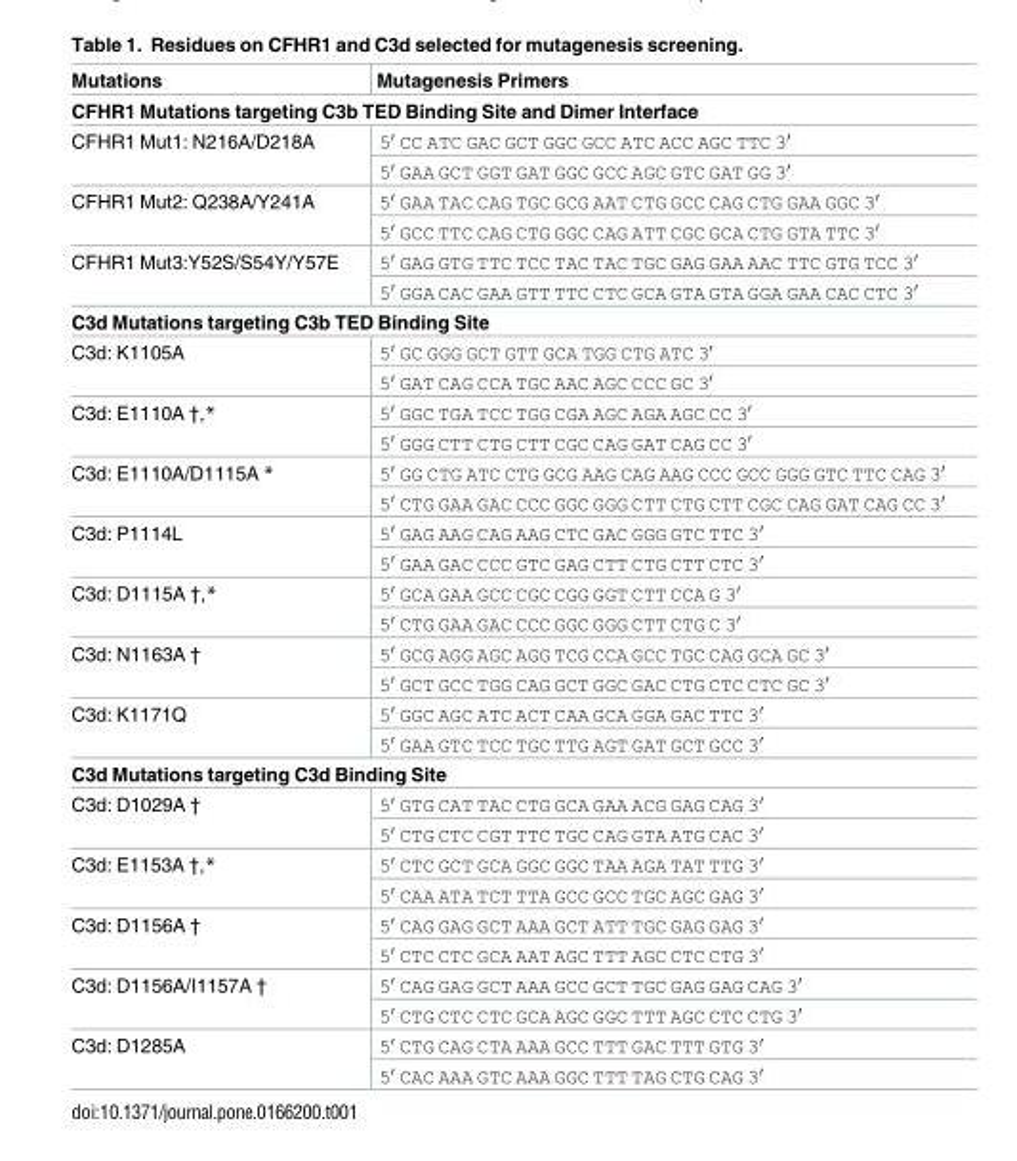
<table><thead><tr><td>Mutations</td><td>Mutagenesis Primers</td></tr></thead><tbody><tr><td colspan="2">CFHR1 Mutations targeting C3b TED Binding Site and Dimer Interface</td></tr><tr><td rowspan="2">CFHR1 Mut1: N216A/D218A</td><td>5′ CC ATC GAC GCT GGC GCC ATC ACC AGC TTC 3′</td></tr><tr><td>5′ GAA GCT GGT GAT GGC GCC AGC GTC GAT GG 3′</td></tr><tr><td rowspan="2">CFHR1 Mut2: Q238A/Y241A</td><td>5′ GAA TAC CAG TGC GCG AAT CTG GCC CAG CTG GAA GGC 3′</td></tr><tr><td>5′ GCC TTC CAG CTG GGC CAG ATT CGC GCA CTG GTA TTC 3′</td></tr><tr><td rowspan="2">CFHR1 Mut3:Y52S/S54Y/Y57E</td><td>5ʹ GAG GTG TTC TCC TAC TAC TGC GAG GAA AAC TTC GTG TCC 3ʹ</td></tr><tr><td>5ʹ GGA CAC GAA GTT TTC CTC GCA GTA GTA GGA GAA CAC CTC 3ʹ</td></tr><tr><td colspan="2">C3d Mutations targeting C3b TED Binding Site</td></tr><tr><td rowspan="2">C3d: K1105A</td><td>5′ GC GGG GCT GTT GCA TGG CTG ATC 3′</td></tr><tr><td>5′ GAT CAG CCA TGC AAC AGC CCC GC 3′</td></tr><tr><td rowspan="2">C3d: E1110A †,*</td><td>5′ GGC TGA TCC TGG CGA AGC AGA AGC CC 3′</td></tr><tr><td>5′ GGG CTT CTG CTT CGC CAG GAT CAG CC 3′</td></tr><tr><td rowspan="2">C3d: E1110A/D1115A *</td><td>5′ GG CTG ATC CTG GCG AAG CAG AAG CCC GCC GGG GTC TTC CAG 3′</td></tr><tr><td>5′ CTG GAA GAC CCC GGC GGG CTT CTG CTT CGC CAG GAT CAG CC 3′</td></tr><tr><td rowspan="2">C3d: P1114L</td><td>5′ GAG AAG CAG AAG CTC GAC GGG GTC TTC 3′</td></tr><tr><td>5′ GAA GAC CCC GTC GAG CTT CTG CTT CTC 3′</td></tr><tr><td rowspan="2">C3d: D1115A †,*</td><td>5′ GCA GAA GCC CGC CGG GGT CTT CCA G 3′</td></tr><tr><td>5′ CTG GAA GAC CCC GGC GGG CTT CTG C 3′</td></tr><tr><td rowspan="2">C3d: N1163A †</td><td>5′ GCG AGG AGC AGG TCG CCA GCC TGC CAG GCA GC 3′</td></tr><tr><td>5′ GCT GCC TGG CAG GCT GGC GAC CTG CTC CTC GC 3′</td></tr><tr><td rowspan="2">C3d: K1171Q</td><td>5′ GGC AGC ATC ACT CAA GCA GGA GAC TTC 3′</td></tr><tr><td>5′ GAA GTC TCC TGC TTG AGT GAT GCT GCC 3′</td></tr><tr><td colspan="2">C3d Mutations targeting C3d Binding Site</td></tr><tr><td rowspan="2">C3d: D1029A †</td><td>5′ GTG CAT TAC CTG GCA GAA ACG GAG CAG 3′</td></tr><tr><td>5′ CTG CTC CGT TTC TGC CAG GTA ATG CAC 3′</td></tr><tr><td rowspan="2">C3d: E1153A †,*</td><td>5′ CTC GCT GCA GGC GGC TAA AGA TAT TTG 3′</td></tr><tr><td>5′ CAA ATA TCT TTA GCC GCC TGC AGC GAG 3′</td></tr><tr><td rowspan="2">C3d: D1156A †</td><td>5′ CAG GAG GCT AAA GCT ATT TGC GAG GAG 3′</td></tr><tr><td>5′ CTC CTC GCA AAT AGC TTT AGC CTC CTG 3′</td></tr><tr><td rowspan="2">C3d: D1156A/I1157A †</td><td>5′ CAG GAG GCT AAA GCC GCT TGC GAG GAG CAG 3′</td></tr><tr><td>5′ CTG CTC CTC GCA AGC GGC TTT AGC CTC CTG 3′</td></tr><tr><td rowspan="2">C3d: D1285A</td><td>5′ CTG CAG CTA AAA GCC TTT GAC TTT GTG 3′</td></tr><tr><td>5′ CAC AAA GTC AAA GGC TTT TAG CTG CAG 3′</td></tr></tbody></table>